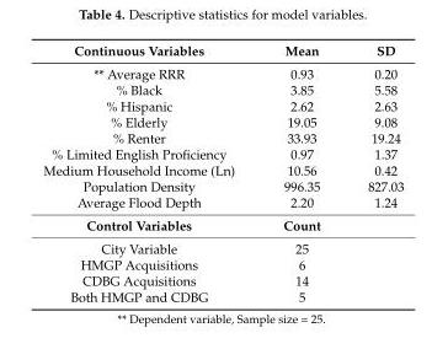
<table><thead><tr><td>Continuous Variables</td><td>Mean</td><td>SD</td></tr></thead><tbody><tr><td>** Average RRR</td><td>0.93</td><td>0.20</td></tr><tr><td>% Black</td><td>3.85</td><td>5.58</td></tr><tr><td>% Hispanic</td><td>2.62</td><td>2.63</td></tr><tr><td>% Elderly</td><td>19.05</td><td>9.08</td></tr><tr><td>% Renter</td><td>33.93</td><td>19.24</td></tr><tr><td>% Limited English Proficiency</td><td>0.97</td><td>1.37</td></tr><tr><td>Medium Household Income (Ln)</td><td>10.56</td><td>0.42</td></tr><tr><td>Population Density</td><td>996.35</td><td>827.03</td></tr><tr><td>Average Flood Depth</td><td>2.20</td><td>1.24</td></tr><tr><td>Control Variables</td><td>Count</td><td></td></tr><tr><td>City Variable</td><td>25</td><td></td></tr><tr><td>HMGP Acquisitions</td><td>6</td><td></td></tr><tr><td>CDBG Acquisitions</td><td>14</td><td></td></tr><tr><td>Both HMGP and CDBG</td><td>5</td><td></td></tr></tbody></table>